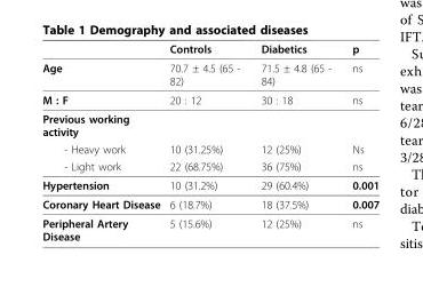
<table><thead><tr><td></td><td>Controls</td><td>Diabetics</td><td>p</td></tr></thead><tbody><tr><td>Age</td><td>70.7 ± 4.5 (65 - 82)</td><td>71.5 ± 4.8 (65 - 84)</td><td>ns</td></tr><tr><td>M : F</td><td>20 : 12</td><td>30 : 18</td><td>ns</td></tr><tr><td colspan="4">Previous working activity</td></tr><tr><td>- Heavy work</td><td>10 (31.25%)</td><td>12 (25%)</td><td>Ns</td></tr><tr><td>- Light work</td><td>22 (68.75%)</td><td>36 (75%)</td><td>ns</td></tr><tr><td>Hypertension</td><td>10 (31.2%)</td><td>29 (60.4%)</td><td>0.001</td></tr><tr><td>Coronary Heart Disease</td><td>6 (18.7%)</td><td>18 (37.5%)</td><td>0.007</td></tr><tr><td>Peripheral Artery Disease</td><td>5 (15.6%)</td><td>12 (25%)</td><td>ns</td></tr></tbody></table>